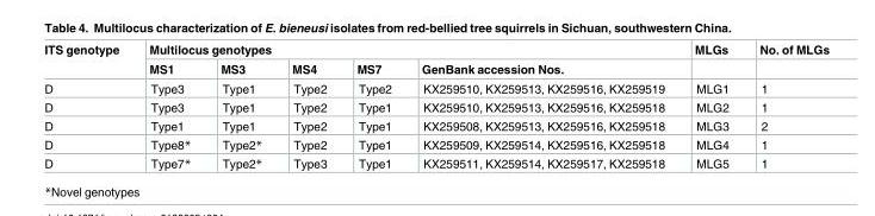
<table><thead><tr><td rowspan="2">ITS genotype</td><td colspan="5">Multilocus genotypes</td><td rowspan="2">MLGs</td><td rowspan="2">No. of MLGs</td></tr><tr><td>MS1</td><td>MS3</td><td>MS4</td><td>MS7</td><td>GenBank accession Nos.</td></tr></thead><tbody><tr><td>D</td><td>Type3</td><td>Type1</td><td>Type2</td><td>Type2</td><td>KX259510, KX259513, KX259516, KX259519</td><td>MLG1</td><td>1</td></tr><tr><td>D</td><td>Type3</td><td>Type1</td><td>Type2</td><td>Type1</td><td>KX259510, KX259513, KX259516, KX259518</td><td>MLG2</td><td>1</td></tr><tr><td>D</td><td>Type1</td><td>Type1</td><td>Type2</td><td>Type1</td><td>KX259508, KX259513, KX259516, KX259518</td><td>MLG3</td><td>2</td></tr><tr><td>D</td><td>Type8*</td><td>Type2*</td><td>Type2</td><td>Type1</td><td>KX259509, KX259514, KX259516, KX259518</td><td>MLG4</td><td>1</td></tr><tr><td>D</td><td>Type7*</td><td>Type2*</td><td>Type3</td><td>Type1</td><td>KX259511, KX259514, KX259517, KX259518</td><td>MLG5</td><td>1</td></tr></tbody></table>